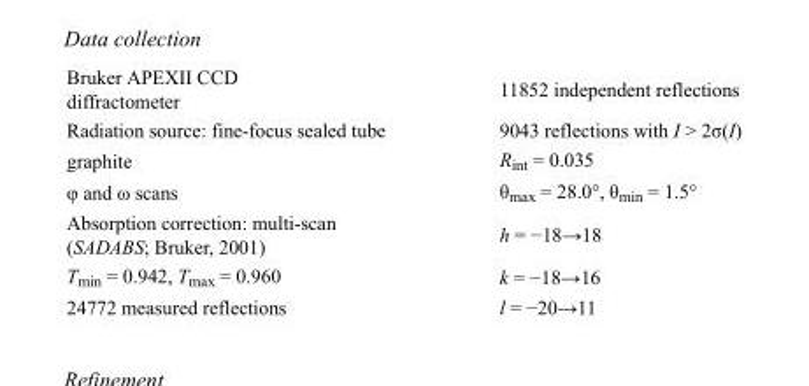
<table><tbody><tr><td>Bruker APEXII CCD diffractometer</td><td>11852 independent reflections</td></tr><tr><td>Radiation source: fine-focus sealed tube</td><td>9043 reflections with I &gt; 2σ(I)</td></tr><tr><td>graphite</td><td>R<sub>int</sub> = 0.035</td></tr><tr><td>φ and ω scans</td><td>θ<sub>max</sub> = 28.0°, θ<sub>min</sub> = 1.5°</td></tr><tr><td>Absorption correction: multi-scan (SADABS; Bruker, 2001)</td><td>h = −18→18</td></tr><tr><td>T<sub>min</sub> = 0.942, T<sub>max</sub> = 0.960</td><td>k = −18→16</td></tr><tr><td>24772 measured reflections</td><td>l = −20→11</td></tr></tbody></table>